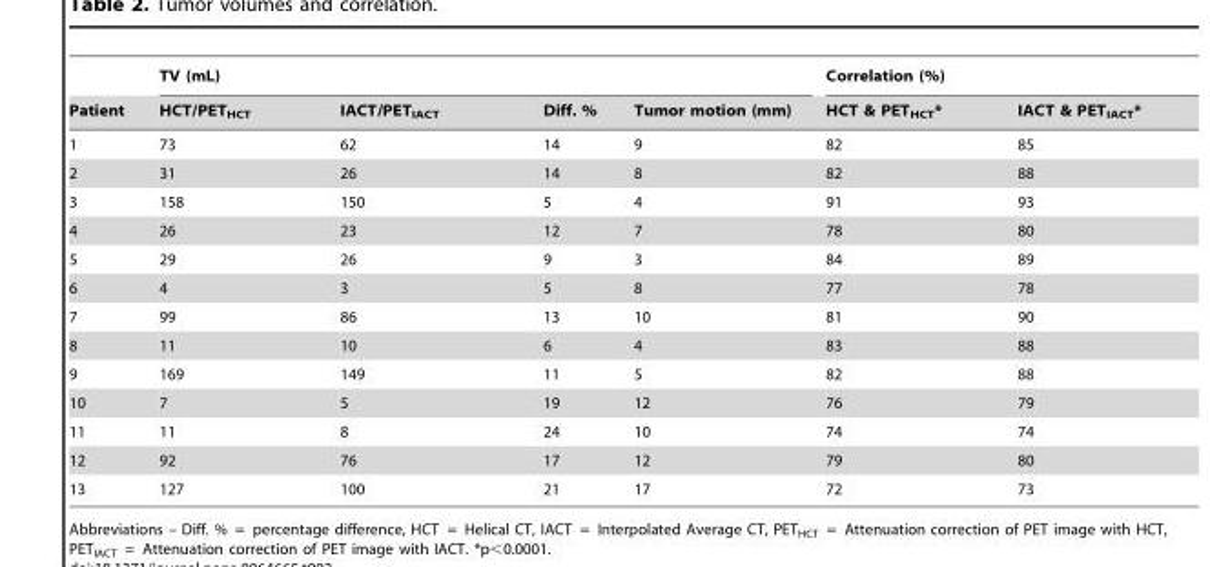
<table><thead><tr><td rowspan="2">Patient</td><td colspan="4">TV (mL)</td><td colspan="2">Correlation (%)</td></tr><tr><td>HCT/PET<sub>HCT</sub></td><td>IACT/PET<sub>IACT</sub></td><td>Diff. %</td><td>Tumor motion (mm)</td><td>HCT &amp; PET<sub>HCT</sub>*</td><td>IACT &amp; PET<sub>IACT</sub>*</td></tr></thead><tbody><tr><td>1</td><td>73</td><td>62</td><td>14</td><td>9</td><td>82</td><td>85</td></tr><tr><td>2</td><td>31</td><td>26</td><td>14</td><td>8</td><td>82</td><td>88</td></tr><tr><td>3</td><td>158</td><td>150</td><td>5</td><td>4</td><td>91</td><td>93</td></tr><tr><td>4</td><td>26</td><td>23</td><td>12</td><td>7</td><td>78</td><td>80</td></tr><tr><td>5</td><td>29</td><td>26</td><td>9</td><td>3</td><td>84</td><td>89</td></tr><tr><td>6</td><td>4</td><td>3</td><td>5</td><td>8</td><td>77</td><td>78</td></tr><tr><td>7</td><td>99</td><td>86</td><td>13</td><td>10</td><td>81</td><td>90</td></tr><tr><td>8</td><td>11</td><td>10</td><td>6</td><td>4</td><td>83</td><td>88</td></tr><tr><td>9</td><td>169</td><td>149</td><td>11</td><td>5</td><td>82</td><td>88</td></tr><tr><td>10</td><td>7</td><td>5</td><td>19</td><td>12</td><td>76</td><td>79</td></tr><tr><td>11</td><td>11</td><td>8</td><td>24</td><td>10</td><td>74</td><td>74</td></tr><tr><td>12</td><td>92</td><td>76</td><td>17</td><td>12</td><td>79</td><td>80</td></tr><tr><td>13</td><td>127</td><td>100</td><td>21</td><td>17</td><td>72</td><td>73</td></tr></tbody></table>